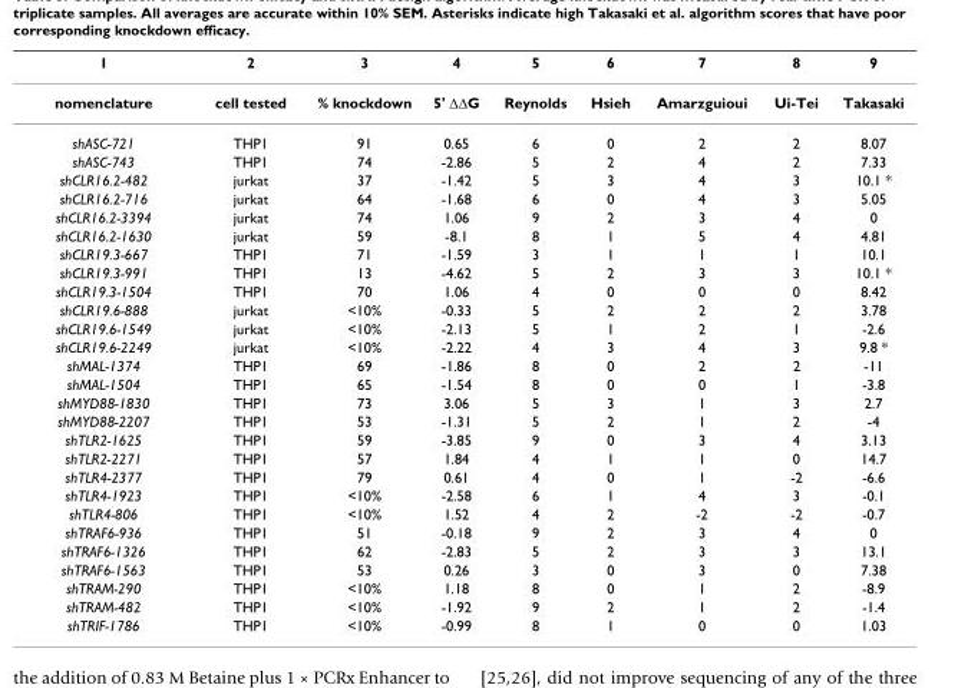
<table><thead><tr><td>1</td><td>2</td><td>3</td><td>4</td><td>5</td><td>6</td><td>7</td><td>8</td><td>9</td></tr></thead><tbody><tr><td>nomenclature</td><td>cell tested</td><td>% knockdown</td><td>5&#x27; ∆∆G</td><td>Reynolds</td><td>Hsieh</td><td>Amarzguioui</td><td>Ui-Tei</td><td>Takasaki</td></tr><tr><td>shASC-721</td><td>THP1</td><td>91</td><td>0.65</td><td>6</td><td>0</td><td>2</td><td>2</td><td>8.07</td></tr><tr><td>shASC-743</td><td>THP1</td><td>74</td><td>-2.86</td><td>5</td><td>2</td><td>4</td><td>2</td><td>7.33</td></tr><tr><td>shCLR16.2-482</td><td>jurkat</td><td>37</td><td>-1.42</td><td>5</td><td>3</td><td>4</td><td>3</td><td>10.1 *</td></tr><tr><td>shCLR16.2-716</td><td>jurkat</td><td>64</td><td>-1.68</td><td>6</td><td>0</td><td>4</td><td>3</td><td>5.05</td></tr><tr><td>shCLR16.2-3394</td><td>jurkat</td><td>74</td><td>1.06</td><td>9</td><td>2</td><td>3</td><td>4</td><td>0</td></tr><tr><td>shCLR16.2-1630</td><td>jurkat</td><td>59</td><td>-8.1</td><td>8</td><td>1</td><td>5</td><td>4</td><td>4.81</td></tr><tr><td>shCLR19.3-667</td><td>THP1</td><td>71</td><td>-1.59</td><td>3</td><td>1</td><td>1</td><td>1</td><td>10.1</td></tr><tr><td>shCLR19.3-991</td><td>THP1</td><td>13</td><td>-4.62</td><td>5</td><td>2</td><td>3</td><td>3</td><td>10.1 *</td></tr><tr><td>shCLR19.3-1504</td><td>THP1</td><td>70</td><td>1.06</td><td>4</td><td>0</td><td>0</td><td>0</td><td>8.42</td></tr><tr><td>shCLR19.6-888</td><td>jurkat</td><td>&lt;10%</td><td>-0.33</td><td>5</td><td>2</td><td>2</td><td>2</td><td>3.78</td></tr><tr><td>shCLR19.6-1549</td><td>jurkat</td><td>&lt;10%</td><td>-2.13</td><td>5</td><td>1</td><td>2</td><td>1</td><td>-2.6</td></tr><tr><td>shCLR19.6-2249</td><td>jurkat</td><td>&lt;10%</td><td>-2.22</td><td>4</td><td>3</td><td>4</td><td>3</td><td>9.8 *</td></tr><tr><td>shMAL-1374</td><td>THP1</td><td>69</td><td>-1.86</td><td>8</td><td>0</td><td>2</td><td>2</td><td>-11</td></tr><tr><td>shMAL-1504</td><td>THP1</td><td>65</td><td>-1.54</td><td>8</td><td>0</td><td>0</td><td>1</td><td>-3.8</td></tr><tr><td>shMYD88-1830</td><td>THP1</td><td>73</td><td>3.06</td><td>5</td><td>3</td><td>1</td><td>3</td><td>2.7</td></tr><tr><td>shMYD88-2207</td><td>THP1</td><td>53</td><td>-1.31</td><td>5</td><td>2</td><td>1</td><td>2</td><td>-4</td></tr><tr><td>shTLR2-1625</td><td>THP1</td><td>59</td><td>-3.85</td><td>9</td><td>0</td><td>3</td><td>4</td><td>3.13</td></tr><tr><td>shTLR2-2271</td><td>THP1</td><td>57</td><td>1.84</td><td>4</td><td>1</td><td>1</td><td>0</td><td>14.7</td></tr><tr><td>shTLR4-2377</td><td>THP1</td><td>79</td><td>0.61</td><td>4</td><td>0</td><td>1</td><td>-2</td><td>-6.6</td></tr><tr><td>shTLR4-1923</td><td>THP1</td><td>&lt;10%</td><td>-2.58</td><td>6</td><td>1</td><td>4</td><td>3</td><td>-0.1</td></tr><tr><td>shTLR4-806</td><td>THP1</td><td>&lt;10%</td><td>1.52</td><td>4</td><td>2</td><td>-2</td><td>-2</td><td>-0.7</td></tr><tr><td>shTRAF6-936</td><td>THP1</td><td>51</td><td>-0.18</td><td>9</td><td>2</td><td>3</td><td>4</td><td>0</td></tr><tr><td>shTRAF6-1326</td><td>THP1</td><td>62</td><td>-2.83</td><td>5</td><td>2</td><td>3</td><td>3</td><td>13.1</td></tr><tr><td>shTRAF6-1563</td><td>THP1</td><td>53</td><td>0.26</td><td>3</td><td>0</td><td>3</td><td>0</td><td>7.38</td></tr><tr><td>shTRAM-290</td><td>THP1</td><td>&lt;10%</td><td>1.18</td><td>8</td><td>0</td><td>1</td><td>2</td><td>-8.9</td></tr><tr><td>shTRAM-482</td><td>THP1</td><td>&lt;10%</td><td>-1.92</td><td>9</td><td>2</td><td>1</td><td>2</td><td>-1.4</td></tr><tr><td>shTRIF-1786</td><td>THP1</td><td>&lt;10%</td><td>-0.99</td><td>8</td><td>1</td><td>0</td><td>0</td><td>1.03</td></tr></tbody></table>